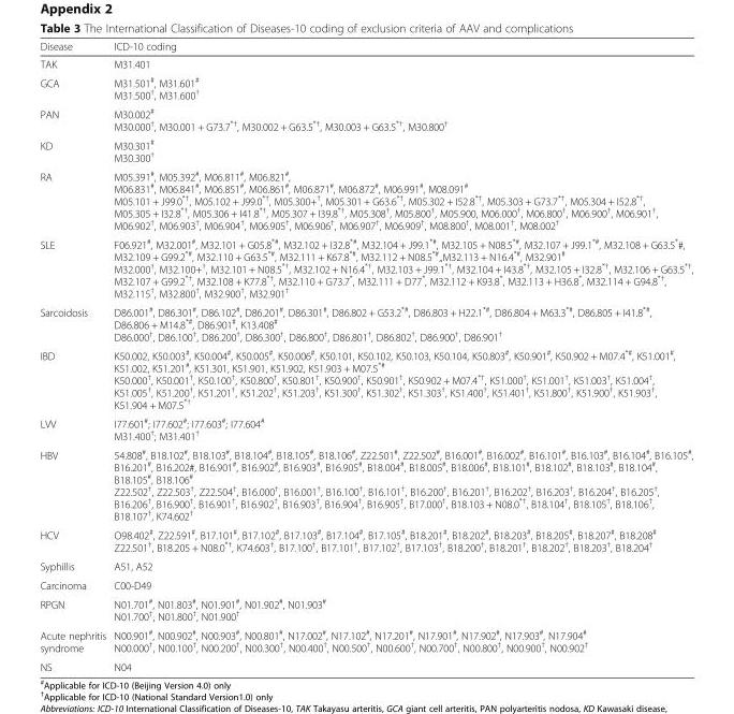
<table><thead><tr><td>Disease</td><td>ICD-10 coding</td></tr></thead><tbody><tr><td>TAK</td><td>M31.401</td></tr><tr><td>GCA</td><td>M31.501<sup>#</sup>, M31.601<sup>#</sup> M31.500<sup>†</sup>, M31.600<sup>†</sup></td></tr><tr><td>PAN</td><td>M30.002<sup>#</sup> M30.000<sup>†</sup>, M30.001 + G73.7<sup>*†</sup>, M30.002 + G63.5<sup>*†</sup>, M30.003 + G63.5<sup>*†</sup>, M30.800<sup>†</sup></td></tr><tr><td>KD</td><td>M30.301<sup>#</sup> M30.300<sup>†</sup></td></tr><tr><td>RA</td><td>M05.391#, M05.392#, M06.811#, M06.821#, M06.831#, M06.841#, M06.851#, M06.861#, M06.871#, M06.872#, M06.991#, M08.091# M05.101 + J99.0*†, M05.102 + J99.0*†, M05.300+†, M05.301 + G63.6*†, M05.302 + I52.8*†, M05.303 + G73.7*†, M05.304 + I52.8*†, M05.305 + I32.8*†, M05.306 + I41.8*†, M05.307 + I39.8*†, M05.308†, M05.800†, M05.900, M06.000†, M06.800†, M06.900†, M06.901†, M06.902†, M06.903†, M06.904†, M06.905†, M06.906†, M06.907†, M06.909†, M08.800†, M08.001†, M08.002†</td></tr><tr><td>SLE</td><td>F06.921#, M32.001#, M32.101 + G05.8*#, M32.102 + I32.8*#, M32.104 + J99.1*#, M32.105 + N08.5*#, M32.107 + J99.1*#, M32.108 + G63.5*#, M32.109 + G99.2*#, M32.110 + G63.5*#, M32.111 + K67.8*#, M32.112 + N08.5*#,,M32.113 + N16.4*#, M32.901# M32.000†, M32.100+†, M32.101 + N08.5*†, M32.102 + N16.4*†, M32.103 + J99.1*†, M32.104 + I43.8*†, M32.105 + I32.8*†, M32.106 + G63.5*†, M32.107 + G99.2*†, M32.108 + K77.8*†, M32.110 + G73.7*, M32.111 + D77*, M32.112 + K93.8*, M32.113 + H36.8*, M32.114 + G94.8*†, M32.115†, M32.800†, M32.900†, M32.901†</td></tr><tr><td>Sarcoidosis</td><td>D86.001<sup>#</sup>, D86.301<sup>#</sup>, D86.102<sup>#</sup>, D86.201<sup>#</sup>, D86.301<sup>#</sup>, D86.802 + G53.2<sup>*#</sup>, D86.803 + H22.1<sup>*#</sup>, D86.804 + M63.3<sup>*#</sup>, D86.805 + I41.8<sup>*#</sup>, D86.806 + M14.8<sup>*#</sup>, D86.901<sup>#</sup>, K13.408<sup>#</sup> D86.000<sup>†</sup>, D86.100<sup>†</sup>, D86.200<sup>†</sup>, D86.300<sup>†</sup>, D86.800<sup>†</sup>, D86.801<sup>†</sup>, D86.802<sup>†</sup>, D86.900<sup>†</sup>, D86.901<sup>†</sup></td></tr><tr><td>IBD</td><td>K50.002, K50.003#, K50.004#, K50.005#, K50.006#, K50.101, K50.102, K50.103, K50.104, K50.803#, K50.901#, K50.902 + M07.4*#, K51.001#, K51.002, K51.201#, K51.301, K51.901, K51.902, K51.903 + M07.5*# K50.000†, K50.001†, K50.100†, K50.800†, K50.801†, K50.900†, K50.901†, K50.902 + M07.4*†, K51.000†, K51.001†, K51.003†, K51.004†, K51.005†, K51.200†, K51.201†, K51.202†, K51.203†, K51.300†, K51.302†, K51.303†, K51.400†, K51.401†, K51.800†, K51.900†, K51.903†, K51.904 + M07.5*†</td></tr><tr><td>LVV</td><td>I77.601<sup>#</sup>; I77.602<sup>#</sup>; I77.603<sup>#</sup>; I77.604<sup>#</sup> M31.400<sup>†</sup>; M31.401<sup>†</sup></td></tr><tr><td>HBV</td><td>54.808#, B18.102#, B18.103#, B18.104#, B18.105#, B18.106#, Z22.501#, Z22.502#, B16.001#, B16.002#, B16.101#, B16.103#, B16.104#, B16.105#, B16.201#, B16.202#, B16.901#, B16.902#, B16.903#, B16.905#, B18.004#, B18.005#, B18.006#, B18.101#, B18.102#, B18.103#, B18.104#, B18.105#, B18.106# Z22.502†, Z22.503†, Z22.504†, B16.000†, B16.001†, B16.100†, B16.101†, B16.200†, B16.201†, B16.202†, B16.203†, B16.204†, B16.205†, B16.206†, B16.900†, B16.901†, B16.902†, B16.903†, B16.904†, B16.905†, B17.000†, B18.103 + N08.0*†, B18.104†, B18.105†, B18.106†, B18.107†, K74.602†</td></tr><tr><td>HCV</td><td>O98.402<sup>#</sup>, Z22.591<sup>#</sup>, B17.101<sup>#</sup>, B17.102<sup>#</sup>, B17.103<sup>#</sup>, B17.104<sup>#</sup>, B17.105<sup>#</sup>, B18.201<sup>#</sup>, B18.202<sup>#</sup>, B18.203<sup>#</sup>, B18.205<sup>#</sup>, B18.207<sup>#</sup>, B18.208<sup>#</sup> Z22.501<sup>†</sup>, B18.205 + N08.0<sup>*†</sup>, K74.603<sup>†</sup>, B17.100<sup>†</sup>, B17.101<sup>†</sup>, B17.102<sup>†</sup>, B17.103<sup>†</sup>, B18.200<sup>†</sup>, B18.201<sup>†</sup>, B18.202<sup>†</sup>, B18.203<sup>†</sup>, B18.204<sup>†</sup></td></tr><tr><td>Syphillis</td><td>A51, A52</td></tr><tr><td>Carcinoma</td><td>C00-D49</td></tr><tr><td>RPGN</td><td>N01.701<sup>#</sup>, N01.803<sup>#</sup>, N01.901<sup>#</sup>, N01.902<sup>#</sup>, N01.903<sup>#</sup> N01.700<sup>†</sup>, N01.800<sup>†</sup>, N01.900<sup>†</sup></td></tr><tr><td>Acute nephritis syndrome</td><td>N00.901<sup>#</sup>, N00.902<sup>#</sup>, N00.903<sup>#</sup>, N00.801<sup>#</sup>, N17.002<sup>#</sup>, N17.102<sup>#</sup>, N17.201<sup>#</sup>, N17.901<sup>#</sup>, N17.902<sup>#</sup>, N17.903<sup>#</sup>, N17.904<sup>#</sup> N00.000<sup>†</sup>, N00.100<sup>†</sup>, N00.200<sup>†</sup>, N00.300<sup>†</sup>, N00.400<sup>†</sup>, N00.500<sup>†</sup>, N00.600<sup>†</sup>, N00.700<sup>†</sup>, N00.800<sup>†</sup>, N00.900<sup>†</sup>, N00.902<sup>†</sup></td></tr><tr><td>NS</td><td>N04</td></tr></tbody></table>